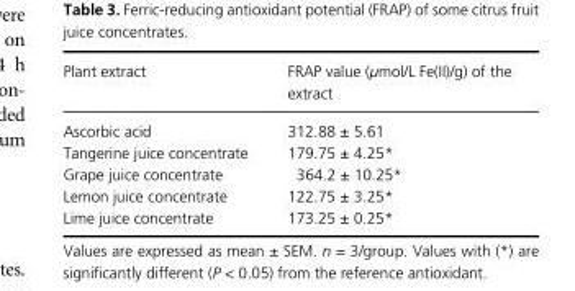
<table><thead><tr><td>Plant extract</td><td>FRAP value (μmol/L Fe(II)/g) of the extract</td></tr></thead><tbody><tr><td>Ascorbic acid</td><td>312.88 ± 5.61</td></tr><tr><td>Tangerine juice concentrate</td><td>179.75 ± 4.25*</td></tr><tr><td>Grape juice concentrate</td><td>364.2 ± 10.25*</td></tr><tr><td>Lemon juice concentrate</td><td>122.75 ± 3.25*</td></tr><tr><td>Lime juice concentrate</td><td>173.25 ± 0.25*</td></tr></tbody></table>